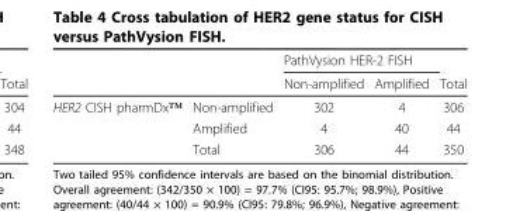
<table><thead><tr><td rowspan="2"></td><td rowspan="2"></td><td colspan="2">PathVysion HER-2 FISH</td><td rowspan="2">Total</td></tr><tr><td>Non-amplified</td><td>Amplified</td></tr></thead><tbody><tr><td rowspan="3">HER2 CISH pharmDx™</td><td>Non-amplified</td><td>302</td><td>4</td><td>306</td></tr><tr><td>Amplified</td><td>4</td><td>40</td><td>44</td></tr><tr><td>Total</td><td>306</td><td>44</td><td>350</td></tr></tbody></table>